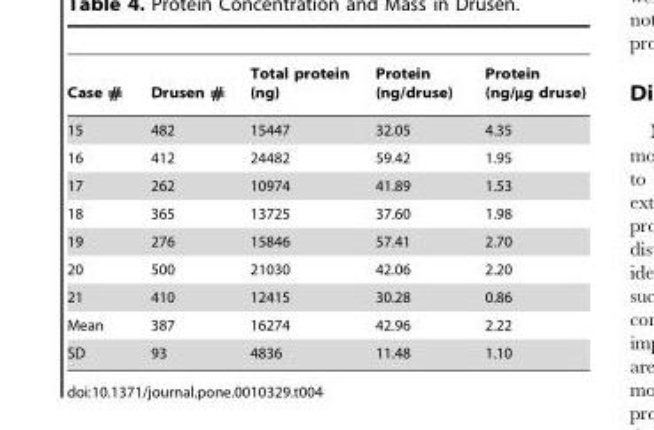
<table><thead><tr><td>Case #</td><td>Drusen #</td><td>Total protein (ng)</td><td>Protein (ng/druse)</td><td>Protein (ng/µg druse)</td></tr></thead><tbody><tr><td>15</td><td>482</td><td>15447</td><td>32.05</td><td>4.35</td></tr><tr><td>16</td><td>412</td><td>24482</td><td>59.42</td><td>1.95</td></tr><tr><td>17</td><td>262</td><td>10974</td><td>41.89</td><td>1.53</td></tr><tr><td>18</td><td>365</td><td>13725</td><td>37.60</td><td>1.98</td></tr><tr><td>19</td><td>276</td><td>15846</td><td>57.41</td><td>2.70</td></tr><tr><td>20</td><td>500</td><td>21030</td><td>42.06</td><td>2.20</td></tr><tr><td>21</td><td>410</td><td>12415</td><td>30.28</td><td>0.86</td></tr><tr><td>Mean</td><td>387</td><td>16274</td><td>42.96</td><td>2.22</td></tr><tr><td>SD</td><td>93</td><td>4836</td><td>11.48</td><td>1.10</td></tr></tbody></table>